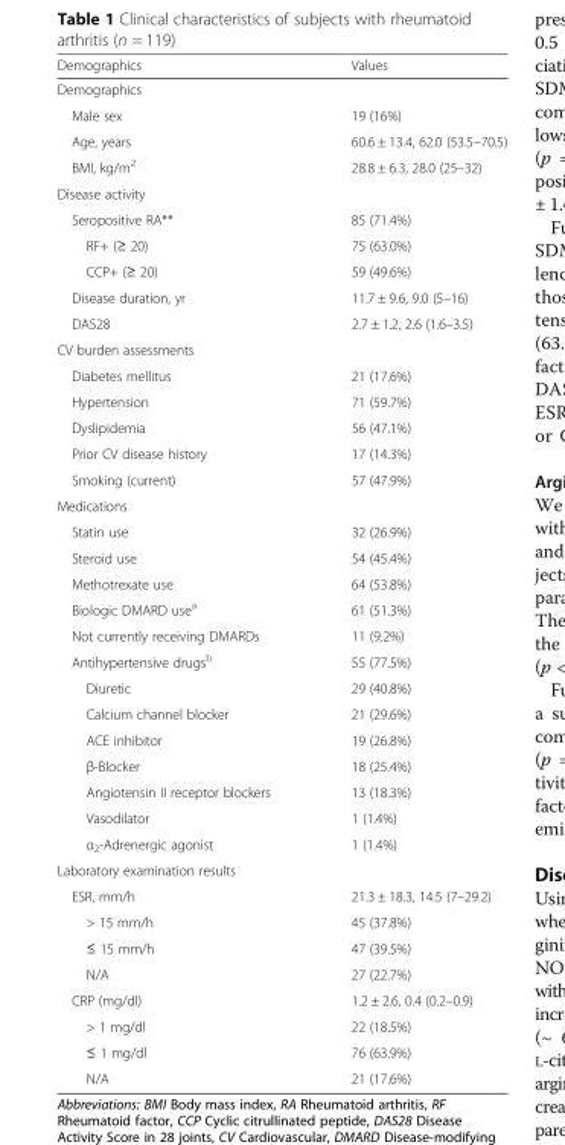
<table><thead><tr><td>Demographics</td><td>Values</td></tr></thead><tbody><tr><td colspan="2">Demographics</td></tr><tr><td>Male sex</td><td>19 (16%)</td></tr><tr><td>Age, years</td><td>60.6 ± 13.4, 62.0 (53.5–70.5)</td></tr><tr><td>BMI, kg/m<sup>2</sup></td><td>28.8 ± 6.3, 28.0 (25–32)</td></tr><tr><td colspan="2">Disease activity</td></tr><tr><td>Seropositive RA**</td><td>85 (71.4%)</td></tr><tr><td>RF+ (≥ 20)</td><td>75 (63.0%)</td></tr><tr><td>CCP+ (≥ 20)</td><td>59 (49.6%)</td></tr><tr><td>Disease duration, yr</td><td>11.7 ± 9.6, 9.0 (5–16)</td></tr><tr><td>DAS28</td><td>2.7 ± 1.2, 2.6 (1.6–3.5)</td></tr><tr><td colspan="2">CV burden assessments</td></tr><tr><td>Diabetes mellitus</td><td>21 (17.6%)</td></tr><tr><td>Hypertension</td><td>71 (59.7%)</td></tr><tr><td>Dyslipidemia</td><td>56 (47.1%)</td></tr><tr><td>Prior CV disease history</td><td>17 (14.3%)</td></tr><tr><td>Smoking (current)</td><td>57 (47.9%)</td></tr><tr><td colspan="2">Medications</td></tr><tr><td>Statin use</td><td>32 (26.9%)</td></tr><tr><td>Steroid use</td><td>54 (45.4%)</td></tr><tr><td>Methotrexate use</td><td>64 (53.8%)</td></tr><tr><td>Biologic DMARD use<sup>a</sup></td><td>61 (51.3%)</td></tr><tr><td>Not currently receiving DMARDs</td><td>11 (9.2%)</td></tr><tr><td>Antihypertensive drugs<sup>b</sup></td><td>55 (77.5%)</td></tr><tr><td>Diuretic</td><td>29 (40.8%)</td></tr><tr><td>Calcium channel blocker</td><td>21 (29.6%)</td></tr><tr><td>ACE inhibitor</td><td>19 (26.8%)</td></tr><tr><td>β-Blocker</td><td>18 (25.4%)</td></tr><tr><td>Angiotensin II receptor blockers</td><td>13 (18.3%)</td></tr><tr><td>Vasodilator</td><td>1 (1.4%)</td></tr><tr><td>α<sub>2</sub>-Adrenergic agonist</td><td>1 (1.4%)</td></tr><tr><td colspan="2">Laboratory examination results</td></tr><tr><td>ESR, mm/h</td><td>21.3 ± 18.3, 14.5 (7–29.2)</td></tr><tr><td>&gt; 15 mm/h</td><td>45 (37.8%)</td></tr><tr><td>≤ 15 mm/h</td><td>47 (39.5%)</td></tr><tr><td>N/A</td><td>27 (22.7%)</td></tr><tr><td>CRP (mg/dl)</td><td>1.2 ± 2.6, 0.4 (0.2–0.9)</td></tr><tr><td>&gt; 1 mg/dl</td><td>22 (18.5%)</td></tr><tr><td>≤ 1 mg/dl</td><td>76 (63.9%)</td></tr><tr><td>N/A</td><td>21 (17.6%)</td></tr></tbody></table>